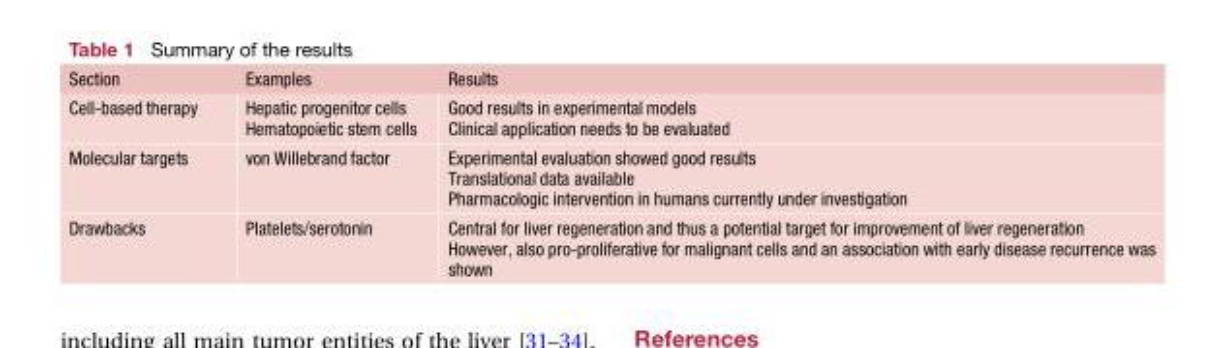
<table><thead><tr><td>Section</td><td>Examples</td><td>Results</td></tr></thead><tbody><tr><td>Cell-based therapy</td><td>Hepatic progenitor cells Hematopoietic stem cells</td><td>Good results in experimental models Clinical application needs to be evaluated</td></tr><tr><td>Molecular targets</td><td>von Willebrand factor</td><td>Experimental evaluation showed good results Translational data available Pharmacologic intervention in humans currently under investigation</td></tr><tr><td>Drawbacks</td><td>Platelets/serotonin</td><td>Central for liver regeneration and thus a potential target for improvement of liver regeneration However, also pro-proliferative for malignant cells and an association with early disease recurrence was shown</td></tr></tbody></table>